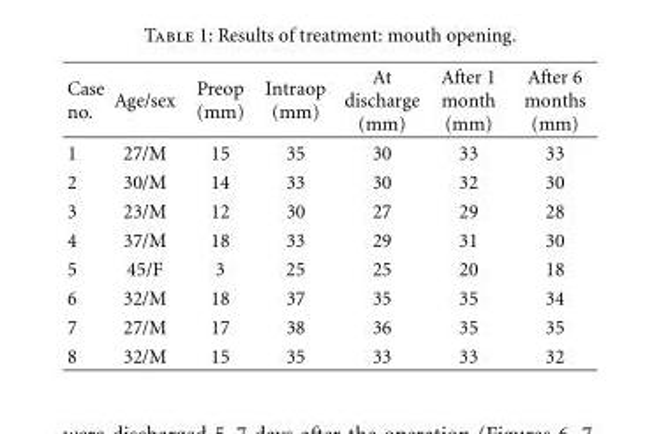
<table><thead><tr><td>Case no.</td><td>Age/sex</td><td>Preop (mm)</td><td>Intraop (mm)</td><td>At discharge (mm)</td><td>After 1 month (mm)</td><td>After 6 months (mm)</td></tr></thead><tbody><tr><td>1</td><td>27/M</td><td>15</td><td>35</td><td>30</td><td>33</td><td>33</td></tr><tr><td>2</td><td>30/M</td><td>14</td><td>33</td><td>30</td><td>32</td><td>30</td></tr><tr><td>3</td><td>23/M</td><td>12</td><td>30</td><td>27</td><td>29</td><td>28</td></tr><tr><td>4</td><td>37/M</td><td>18</td><td>33</td><td>29</td><td>31</td><td>30</td></tr><tr><td>5</td><td>45/F</td><td>3</td><td>25</td><td>25</td><td>20</td><td>18</td></tr><tr><td>6</td><td>32/M</td><td>18</td><td>37</td><td>35</td><td>35</td><td>34</td></tr><tr><td>7</td><td>27/M</td><td>17</td><td>38</td><td>36</td><td>35</td><td>35</td></tr><tr><td>8</td><td>32/M</td><td>15</td><td>35</td><td>33</td><td>33</td><td>32</td></tr></tbody></table>